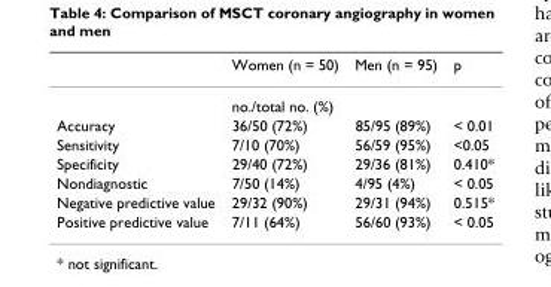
<table><thead><tr><td></td><td>Women (n = 50)</td><td>Men (n = 95)</td><td>p</td></tr></thead><tbody><tr><td></td><td colspan="3">no./total no. (%)</td></tr><tr><td>Accuracy</td><td>36/50 (72%)</td><td>85/95 (89%)</td><td>&lt; 0.01</td></tr><tr><td>Sensitivity</td><td>7/10 (70%)</td><td>56/59 (95%)</td><td>&lt;0.05</td></tr><tr><td>Specificity</td><td>29/40 (72%)</td><td>29/36 (81%)</td><td>0.410*</td></tr><tr><td>Nondiagnostic</td><td>7/50 (14%)</td><td>4/95 (4%)</td><td>&lt; 0.05</td></tr><tr><td>Negative predictive value</td><td>29/32 (90%)</td><td>29/31 (94%)</td><td>0.515*</td></tr><tr><td>Positive predictive value</td><td>7/11 (64%)</td><td>56/60 (93%)</td><td>&lt; 0.05</td></tr></tbody></table>